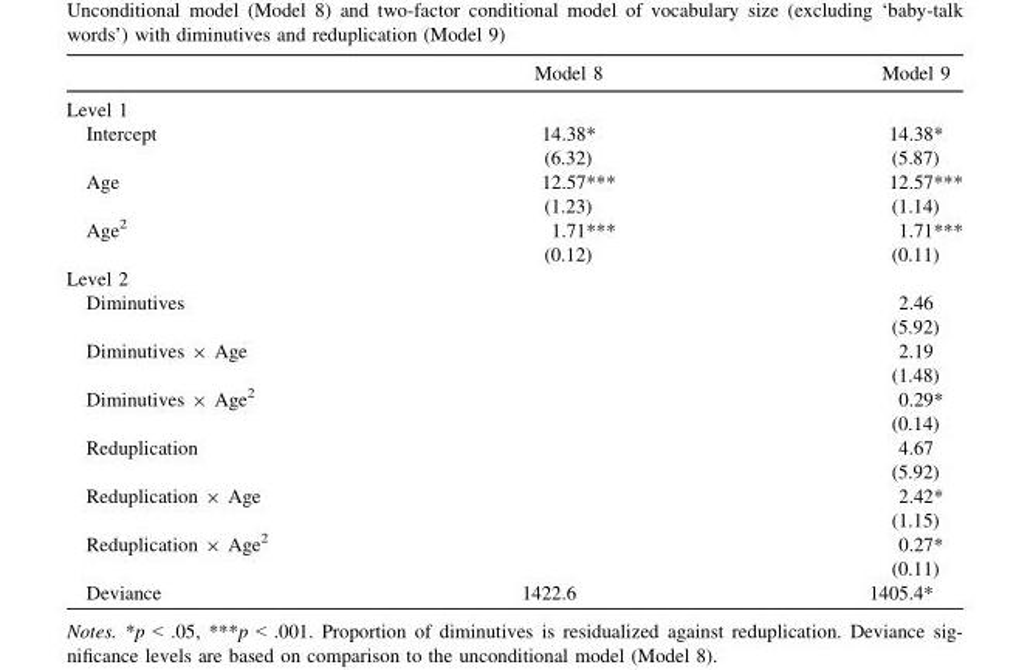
<table><thead><tr><td></td><td>Model 8</td><td>Model 9</td></tr></thead><tbody><tr><td colspan="3">Level 1</td></tr><tr><td>Intercept</td><td>14.38* (6.32)</td><td>14.38* (5.87)</td></tr><tr><td>Age</td><td>12.57*** (1.23)</td><td>12.57*** (1.14)</td></tr><tr><td>Age<sup>2</sup></td><td>1.71*** (0.12)</td><td>1.71*** (0.11)</td></tr><tr><td colspan="3">Level 2</td></tr><tr><td>Diminutives</td><td></td><td>2.46 (5.92)</td></tr><tr><td>Diminutives × Age</td><td></td><td>2.19 (1.48)</td></tr><tr><td>Diminutives × Age<sup>2</sup></td><td></td><td>0.29* (0.14)</td></tr><tr><td>Reduplication</td><td></td><td>4.67 (5.92)</td></tr><tr><td>Reduplication × Age</td><td></td><td>2.42* (1.15)</td></tr><tr><td>Reduplication × Age<sup>2</sup></td><td></td><td>0.27* (0.11)</td></tr><tr><td>Deviance</td><td>1422.6</td><td>1405.4*</td></tr></tbody></table>